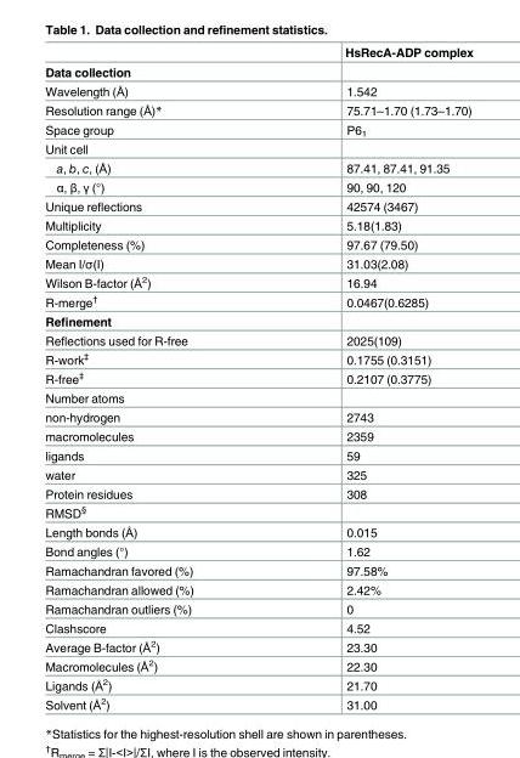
<table><thead><tr><td></td><td>HsRecA-ADP complex</td></tr></thead><tbody><tr><td colspan="2">Data collection</td></tr><tr><td>Wavelength (Å)</td><td>1.542</td></tr><tr><td>Resolution range (Å)*</td><td>75.71–1.70 (1.73–1.70)</td></tr><tr><td>Space group</td><td>P6<sub>1</sub></td></tr><tr><td colspan="2">Unit cell</td></tr><tr><td>a, b, c, (Å)</td><td>87.41, 87.41, 91.35</td></tr><tr><td>α, β, γ (°)</td><td>90, 90, 120</td></tr><tr><td>Unique reflections</td><td>42574 (3467)</td></tr><tr><td>Multiplicity</td><td>5.18(1.83)</td></tr><tr><td>Completeness (%)</td><td>97.67 (79.50)</td></tr><tr><td>Mean I/σ(I)</td><td>31.03(2.08)</td></tr><tr><td>Wilson B-factor (Å<sup>2</sup>)</td><td>16.94</td></tr><tr><td>R-merge<sup>†</sup></td><td>0.0467(0.6285)</td></tr><tr><td colspan="2">Refinement</td></tr><tr><td>Reflections used for R-free</td><td>2025(109)</td></tr><tr><td>R-work<sup>‡</sup></td><td>0.1755 (0.3151)</td></tr><tr><td>R-free<sup>‡</sup></td><td>0.2107 (0.3775)</td></tr><tr><td colspan="2">Number atoms</td></tr><tr><td>non-hydrogen</td><td>2743</td></tr><tr><td>macromolecules</td><td>2359</td></tr><tr><td>ligands</td><td>59</td></tr><tr><td>water</td><td>325</td></tr><tr><td>Protein residues</td><td>308</td></tr><tr><td colspan="2">RMSD<sup>§</sup></td></tr><tr><td>Length bonds (Å)</td><td>0.015</td></tr><tr><td>Bond angles (°)</td><td>1.62</td></tr><tr><td>Ramachandran favored (%)</td><td>97.58%</td></tr><tr><td>Ramachandran allowed (%)</td><td>2.42%</td></tr><tr><td>Ramachandran outliers (%)</td><td>0</td></tr><tr><td>Clashscore</td><td>4.52</td></tr><tr><td>Average B-factor (Å<sup>2</sup>)</td><td>23.30</td></tr><tr><td>Macromolecules (Å<sup>2</sup>)</td><td>22.30</td></tr><tr><td>Ligands (Å<sup>2</sup>)</td><td>21.70</td></tr><tr><td>Solvent (Å<sup>2</sup>)</td><td>31.00</td></tr></tbody></table>